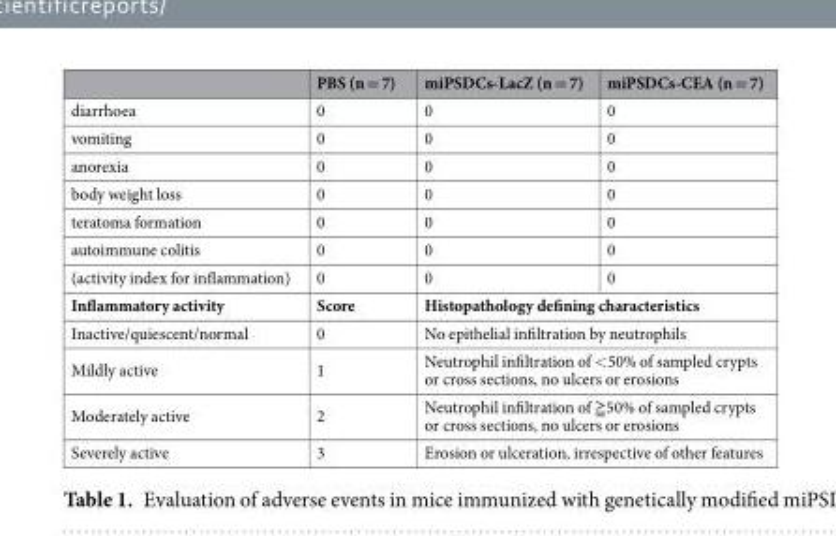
<table><thead><tr><td></td><td>PBS (n = 7)</td><td>miPSDCs-LacZ (n = 7)</td><td>miPSDCs-CEA (n = 7)</td></tr></thead><tbody><tr><td>diarrhoea</td><td>0</td><td>0</td><td>0</td></tr><tr><td>vomiting</td><td>0</td><td>0</td><td>0</td></tr><tr><td>anorexia</td><td>0</td><td>0</td><td>0</td></tr><tr><td>body weight loss</td><td>0</td><td>0</td><td>0</td></tr><tr><td>teratoma formation</td><td>0</td><td>0</td><td>0</td></tr><tr><td>autoimmune colitis</td><td>0</td><td>0</td><td>0</td></tr><tr><td>(activity index for inflammation)</td><td>0</td><td>0</td><td>0</td></tr><tr><td>Inflammatory activity</td><td>Score</td><td colspan="2">Histopathology defining characteristics</td></tr><tr><td>Inactive/quiescent/normal</td><td>0</td><td colspan="2">No epithelial infiltration by neutrophils</td></tr><tr><td>Mildly active</td><td>1</td><td colspan="2">Neutrophil infiltration of &lt;50% of sampled crypts or cross sections, no ulcers or erosions</td></tr><tr><td>Moderately active</td><td>2</td><td colspan="2">Neutrophil infiltration of ≧50% of sampled crypts or cross sections, no ulcers or erosions</td></tr><tr><td>Severely active</td><td>3</td><td colspan="2">Erosion or ulceration, irrespective of other features</td></tr></tbody></table>